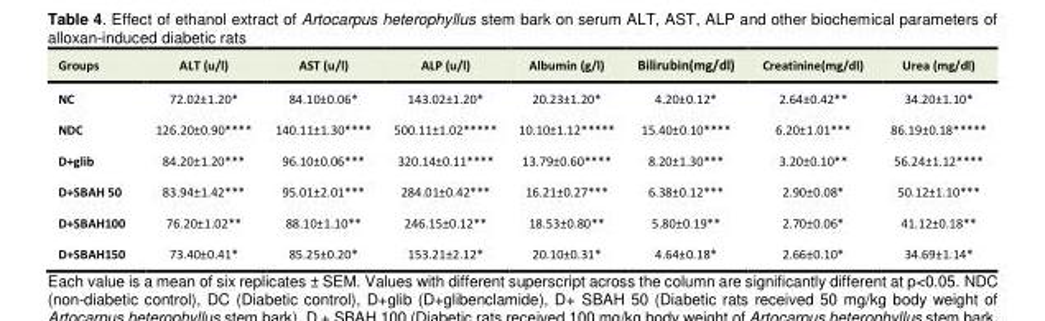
<table><tbody><tr><td>Groups</td><td>ALT (u/l)</td><td>AST (u/l)</td><td>ALP (u/l)</td><td>Albumin (g/l)</td><td>Bilirubin(mg/dl)</td><td>Creatinine(mg/dl)</td><td>Urea (mg/dl)</td></tr><tr><td>NC</td><td>72.02±1.20*</td><td>84.10±0.06*</td><td>143.02±1.20*</td><td>20.23±1.20*</td><td>4.20±0.12*</td><td>2.64±0.42**</td><td>34.20±1.10*</td></tr><tr><td>NDC</td><td>126.20±0.90****</td><td>140.11±1.30****</td><td>500.11±1.02*****</td><td>10.10±1.12*****</td><td>15.40±0.10****</td><td>6.20±1.01***</td><td>86.19±0.18*****</td></tr><tr><td>D+glib</td><td>84.20±1.20***</td><td>96.10±0.06***</td><td>320.14±0.11****</td><td>13.79±0.60****</td><td>8.20±1.30***</td><td>3.20±0.10**</td><td>56.24±1.12****</td></tr><tr><td>D+SBAH 50</td><td>83.94±1.42***</td><td>95.01±2.01***</td><td>284.01±0.42***</td><td>16.21±0.27***</td><td>6.38±0.12***</td><td>2.90±0.08*</td><td>50.12±1.10***</td></tr><tr><td>D+SBAH100</td><td>76.20±1.02**</td><td>88.10±1.10**</td><td>246.15±0.12**</td><td>18.53±0.80**</td><td>5.80±0.19**</td><td>2.70±0.06*</td><td>41.12±0.18**</td></tr><tr><td>D+SBAH150</td><td>73.40±0.41*</td><td>85.25±0.20*</td><td>153.21±2.12*</td><td>20.10±0.31*</td><td>4.64±0.18*</td><td>2.66±0.10*</td><td>34.69±1.14*</td></tr></tbody></table>